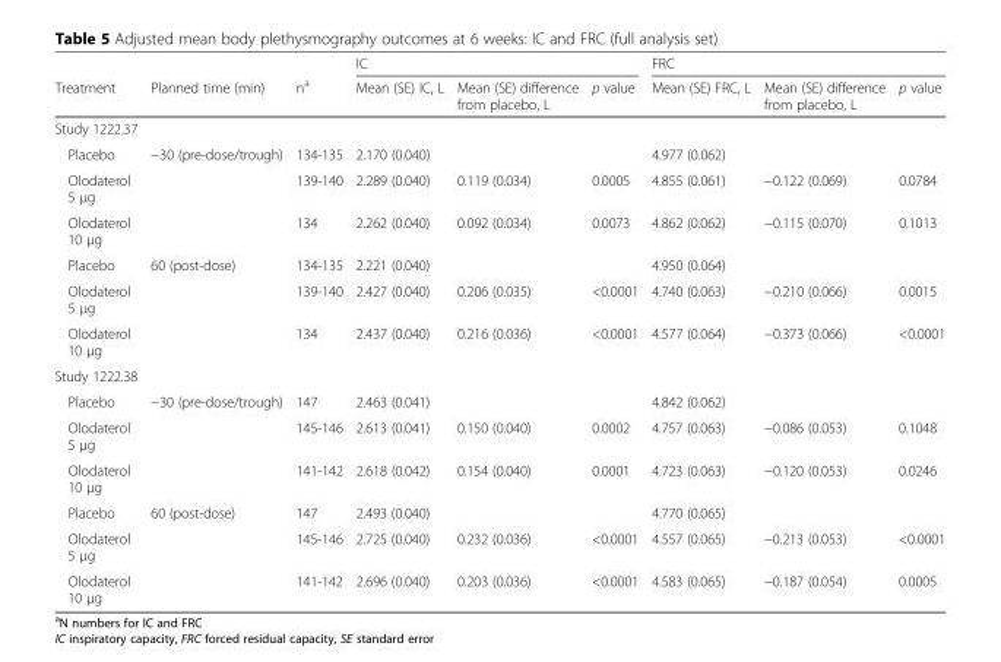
<table><thead><tr><td rowspan="2">Treatment</td><td rowspan="2">Planned time (min)</td><td rowspan="2">n<sup>a</sup></td><td colspan="3">IC</td><td colspan="3">FRC</td></tr><tr><td>Mean (SE) IC, L</td><td>Mean (SE) difference from placebo, L</td><td>p value</td><td>Mean (SE) FRC, L</td><td>Mean (SE) difference from placebo, L</td><td>p value</td></tr></thead><tbody><tr><td colspan="9">Study 1222.37</td></tr><tr><td>Placebo</td><td>−30 (pre-dose/trough)</td><td>134-135</td><td>2.170 (0.040)</td><td></td><td></td><td>4.977 (0.062)</td><td></td><td></td></tr><tr><td>Olodaterol 5 μg</td><td></td><td>139-140</td><td>2.289 (0.040)</td><td>0.119 (0.034)</td><td>0.0005</td><td>4.855 (0.061)</td><td>−0.122 (0.069)</td><td>0.0784</td></tr><tr><td>Olodaterol 10 μg</td><td></td><td>134</td><td>2.262 (0.040)</td><td>0.092 (0.034)</td><td>0.0073</td><td>4.862 (0.062)</td><td>−0.115 (0.070)</td><td>0.1013</td></tr><tr><td>Placebo</td><td>60 (post-dose)</td><td>134-135</td><td>2.221 (0.040)</td><td></td><td></td><td>4.950 (0.064)</td><td></td><td></td></tr><tr><td>Olodaterol 5 μg</td><td></td><td>139-140</td><td>2.427 (0.040)</td><td>0.206 (0.035)</td><td>&lt;0.0001</td><td>4.740 (0.063)</td><td>−0.210 (0.066)</td><td>0.0015</td></tr><tr><td>Olodaterol 10 μg</td><td></td><td>134</td><td>2.437 (0.040)</td><td>0.216 (0.036)</td><td>&lt;0.0001</td><td>4.577 (0.064)</td><td>−0.373 (0.066)</td><td>&lt;0.0001</td></tr><tr><td colspan="9">Study 1222.38</td></tr><tr><td>Placebo</td><td>−30 (pre-dose/trough)</td><td>147</td><td>2.463 (0.041)</td><td></td><td></td><td>4.842 (0.062)</td><td></td><td></td></tr><tr><td>Olodaterol 5 μg</td><td></td><td>145-146</td><td>2.613 (0.041)</td><td>0.150 (0.040)</td><td>0.0002</td><td>4.757 (0.063)</td><td>−0.086 (0.053)</td><td>0.1048</td></tr><tr><td>Olodaterol 10 μg</td><td></td><td>141-142</td><td>2.618 (0.042)</td><td>0.154 (0.040)</td><td>0.0001</td><td>4.723 (0.063)</td><td>−0.120 (0.053)</td><td>0.0246</td></tr><tr><td>Placebo</td><td>60 (post-dose)</td><td>147</td><td>2.493 (0.040)</td><td></td><td></td><td>4.770 (0.065)</td><td></td><td></td></tr><tr><td>Olodaterol 5 μg</td><td></td><td>145-146</td><td>2.725 (0.040)</td><td>0.232 (0.036)</td><td>&lt;0.0001</td><td>4.557 (0.065)</td><td>−0.213 (0.053)</td><td>&lt;0.0001</td></tr><tr><td>Olodaterol 10 μg</td><td></td><td>141-142</td><td>2.696 (0.040)</td><td>0.203 (0.036)</td><td>&lt;0.0001</td><td>4.583 (0.065)</td><td>−0.187 (0.054)</td><td>0.0005</td></tr></tbody></table>